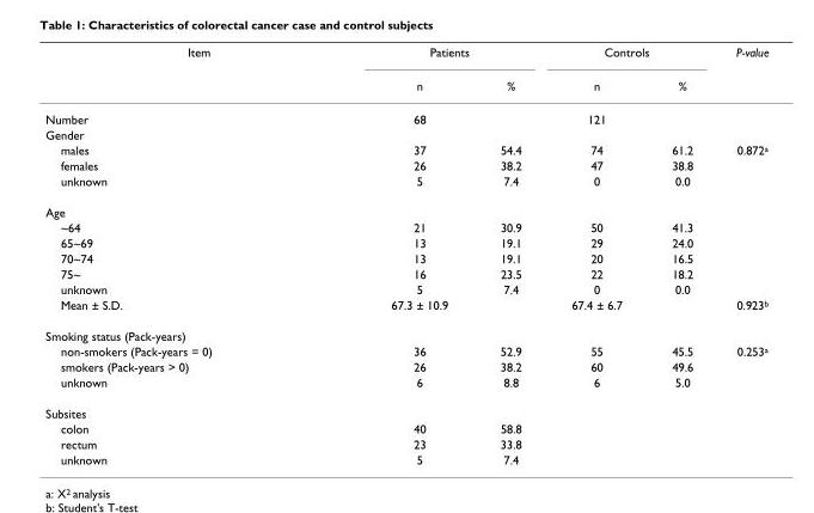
<table><thead><tr><td rowspan="2">Item</td><td colspan="2">Patients</td><td colspan="2">Controls</td><td rowspan="2">P-value</td></tr><tr><td>n</td><td>%</td><td>n</td><td>%</td></tr></thead><tbody><tr><td>Number</td><td>68</td><td></td><td>121</td><td></td><td></td></tr><tr><td colspan="6">Gender</td></tr><tr><td>males</td><td>37</td><td>54.4</td><td>74</td><td>61.2</td><td>0.872<sup>a</sup></td></tr><tr><td>females</td><td>26</td><td>38.2</td><td>47</td><td>38.8</td><td></td></tr><tr><td>unknown</td><td>5</td><td>7.4</td><td>0</td><td>0.0</td><td></td></tr><tr><td colspan="6">Age</td></tr><tr><td>~64</td><td>21</td><td>30.9</td><td>50</td><td>41.3</td><td></td></tr><tr><td>65~69</td><td>13</td><td>19.1</td><td>29</td><td>24.0</td><td></td></tr><tr><td>70~74</td><td>13</td><td>19.1</td><td>20</td><td>16.5</td><td></td></tr><tr><td>75~</td><td>16</td><td>23.5</td><td>22</td><td>18.2</td><td></td></tr><tr><td>unknown</td><td>5</td><td>7.4</td><td>0</td><td>0.0</td><td></td></tr><tr><td>Mean ± S.D.</td><td>67.3 ± 10.9</td><td></td><td>67.4 ± 6.7</td><td></td><td>0.923<sup>b</sup></td></tr><tr><td colspan="6">Smoking status (Pack-years)</td></tr><tr><td>non-smokers (Pack-years = 0)</td><td>36</td><td>52.9</td><td>55</td><td>45.5</td><td>0.253<sup>a</sup></td></tr><tr><td>smokers (Pack-years &gt; 0)</td><td>26</td><td>38.2</td><td>60</td><td>49.6</td><td></td></tr><tr><td>unknown</td><td>6</td><td>8.8</td><td>6</td><td>5.0</td><td></td></tr><tr><td colspan="6">Subsites</td></tr><tr><td>colon</td><td>40</td><td>58.8</td><td></td><td></td><td></td></tr><tr><td>rectum</td><td>23</td><td>33.8</td><td></td><td></td><td></td></tr><tr><td>unknown</td><td>5</td><td>7.4</td><td></td><td></td><td></td></tr></tbody></table>